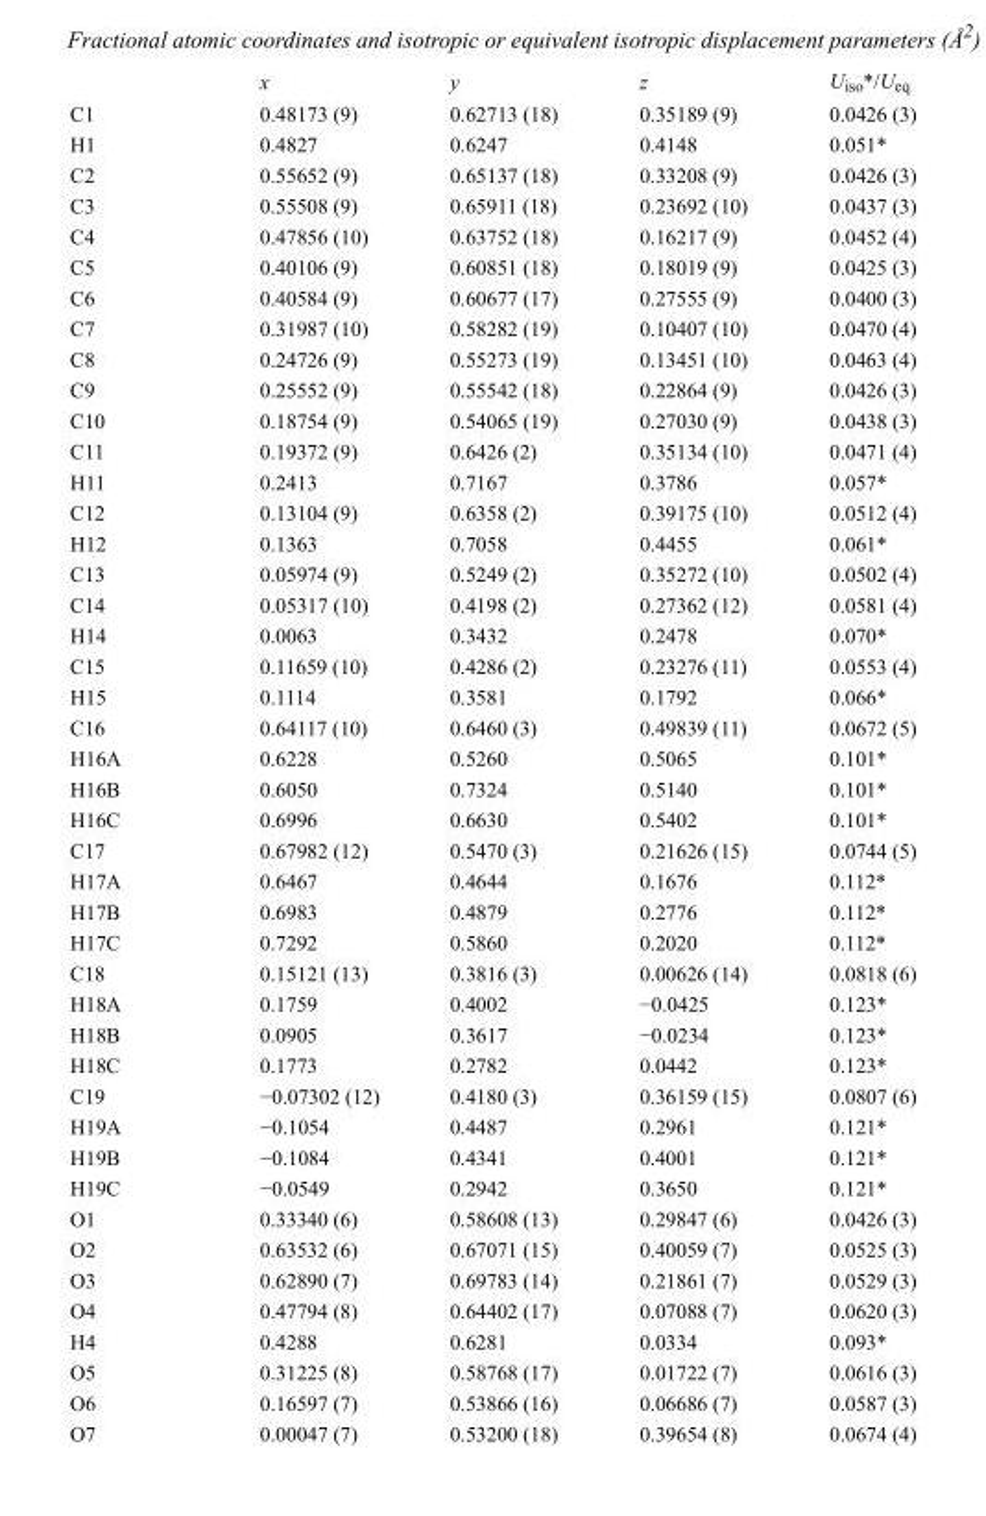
<table><thead><tr><td></td><td>x</td><td>y</td><td>z</td><td>U<sub>iso</sub>*/U<sub>eq</sub></td></tr></thead><tbody><tr><td>C1</td><td>0.48173 (9)</td><td>0.62713 (18)</td><td>0.35189 (9)</td><td>0.0426 (3)</td></tr><tr><td>H1</td><td>0.4827</td><td>0.6247</td><td>0.4148</td><td>0.051*</td></tr><tr><td>C2</td><td>0.55652 (9)</td><td>0.65137 (18)</td><td>0.33208 (9)</td><td>0.0426 (3)</td></tr><tr><td>C3</td><td>0.55508 (9)</td><td>0.65911 (18)</td><td>0.23692 (10)</td><td>0.0437 (3)</td></tr><tr><td>C4</td><td>0.47856 (10)</td><td>0.63752 (18)</td><td>0.16217 (9)</td><td>0.0452 (4)</td></tr><tr><td>C5</td><td>0.40106 (9)</td><td>0.60851 (18)</td><td>0.18019 (9)</td><td>0.0425 (3)</td></tr><tr><td>C6</td><td>0.40584 (9)</td><td>0.60677 (17)</td><td>0.27555 (9)</td><td>0.0400 (3)</td></tr><tr><td>C7</td><td>0.31987 (10)</td><td>0.58282 (19)</td><td>0.10407 (10)</td><td>0.0470 (4)</td></tr><tr><td>C8</td><td>0.24726 (9)</td><td>0.55273 (19)</td><td>0.13451 (10)</td><td>0.0463 (4)</td></tr><tr><td>C9</td><td>0.25552 (9)</td><td>0.55542 (18)</td><td>0.22864 (9)</td><td>0.0426 (3)</td></tr><tr><td>C10</td><td>0.18754 (9)</td><td>0.54065 (19)</td><td>0.27030 (9)</td><td>0.0438 (3)</td></tr><tr><td>C11</td><td>0.19372 (9)</td><td>0.6426 (2)</td><td>0.35134 (10)</td><td>0.0471 (4)</td></tr><tr><td>H11</td><td>0.2413</td><td>0.7167</td><td>0.3786</td><td>0.057*</td></tr><tr><td>C12</td><td>0.13104 (9)</td><td>0.6358 (2)</td><td>0.39175 (10)</td><td>0.0512 (4)</td></tr><tr><td>H12</td><td>0.1363</td><td>0.7058</td><td>0.4455</td><td>0.061*</td></tr><tr><td>C13</td><td>0.05974 (9)</td><td>0.5249 (2)</td><td>0.35272 (10)</td><td>0.0502 (4)</td></tr><tr><td>C14</td><td>0.05317 (10)</td><td>0.4198 (2)</td><td>0.27362 (12)</td><td>0.0581 (4)</td></tr><tr><td>H14</td><td>0.0063</td><td>0.3432</td><td>0.2478</td><td>0.070*</td></tr><tr><td>C15</td><td>0.11659 (10)</td><td>0.4286 (2)</td><td>0.23276 (11)</td><td>0.0553 (4)</td></tr><tr><td>H15</td><td>0.1114</td><td>0.3581</td><td>0.1792</td><td>0.066*</td></tr><tr><td>C16</td><td>0.64117 (10)</td><td>0.6460 (3)</td><td>0.49839 (11)</td><td>0.0672 (5)</td></tr><tr><td>H16A</td><td>0.6228</td><td>0.5260</td><td>0.5065</td><td>0.101*</td></tr><tr><td>H16B</td><td>0.6050</td><td>0.7324</td><td>0.5140</td><td>0.101*</td></tr><tr><td>H16C</td><td>0.6996</td><td>0.6630</td><td>0.5402</td><td>0.101*</td></tr><tr><td>C17</td><td>0.67982 (12)</td><td>0.5470 (3)</td><td>0.21626 (15)</td><td>0.0744 (5)</td></tr><tr><td>H17A</td><td>0.6467</td><td>0.4644</td><td>0.1676</td><td>0.112*</td></tr><tr><td>H17B</td><td>0.6983</td><td>0.4879</td><td>0.2776</td><td>0.112*</td></tr><tr><td>H17C</td><td>0.7292</td><td>0.5860</td><td>0.2020</td><td>0.112*</td></tr><tr><td>C18</td><td>0.15121 (13)</td><td>0.3816 (3)</td><td>0.00626 (14)</td><td>0.0818 (6)</td></tr><tr><td>H18A</td><td>0.1759</td><td>0.4002</td><td>−0.0425</td><td>0.123*</td></tr><tr><td>H18B</td><td>0.0905</td><td>0.3617</td><td>−0.0234</td><td>0.123*</td></tr><tr><td>H18C</td><td>0.1773</td><td>0.2782</td><td>0.0442</td><td>0.123*</td></tr><tr><td>C19</td><td>−0.07302 (12)</td><td>0.4180 (3)</td><td>0.36159 (15)</td><td>0.0807 (6)</td></tr><tr><td>H19A</td><td>−0.1054</td><td>0.4487</td><td>0.2961</td><td>0.121*</td></tr><tr><td>H19B</td><td>−0.1084</td><td>0.4341</td><td>0.4001</td><td>0.121*</td></tr><tr><td>H19C</td><td>−0.0549</td><td>0.2942</td><td>0.3650</td><td>0.121*</td></tr><tr><td>O1</td><td>0.33340 (6)</td><td>0.58608 (13)</td><td>0.29847 (6)</td><td>0.0426 (3)</td></tr><tr><td>O2</td><td>0.63532 (6)</td><td>0.67071 (15)</td><td>0.40059 (7)</td><td>0.0525 (3)</td></tr><tr><td>O3</td><td>0.62890 (7)</td><td>0.69783 (14)</td><td>0.21861 (7)</td><td>0.0529 (3)</td></tr><tr><td>O4</td><td>0.47794 (8)</td><td>0.64402 (17)</td><td>0.07088 (7)</td><td>0.0620 (3)</td></tr><tr><td>H4</td><td>0.4288</td><td>0.6281</td><td>0.0334</td><td>0.093*</td></tr><tr><td>O5</td><td>0.31225 (8)</td><td>0.58768 (17)</td><td>0.01722 (7)</td><td>0.0616 (3)</td></tr><tr><td>O6</td><td>0.16597 (7)</td><td>0.53866 (16)</td><td>0.06686 (7)</td><td>0.0587 (3)</td></tr><tr><td>O7</td><td>0.00047 (7)</td><td>0.53200 (18)</td><td>0.39654 (8)</td><td>0.0674 (4)</td></tr></tbody></table>